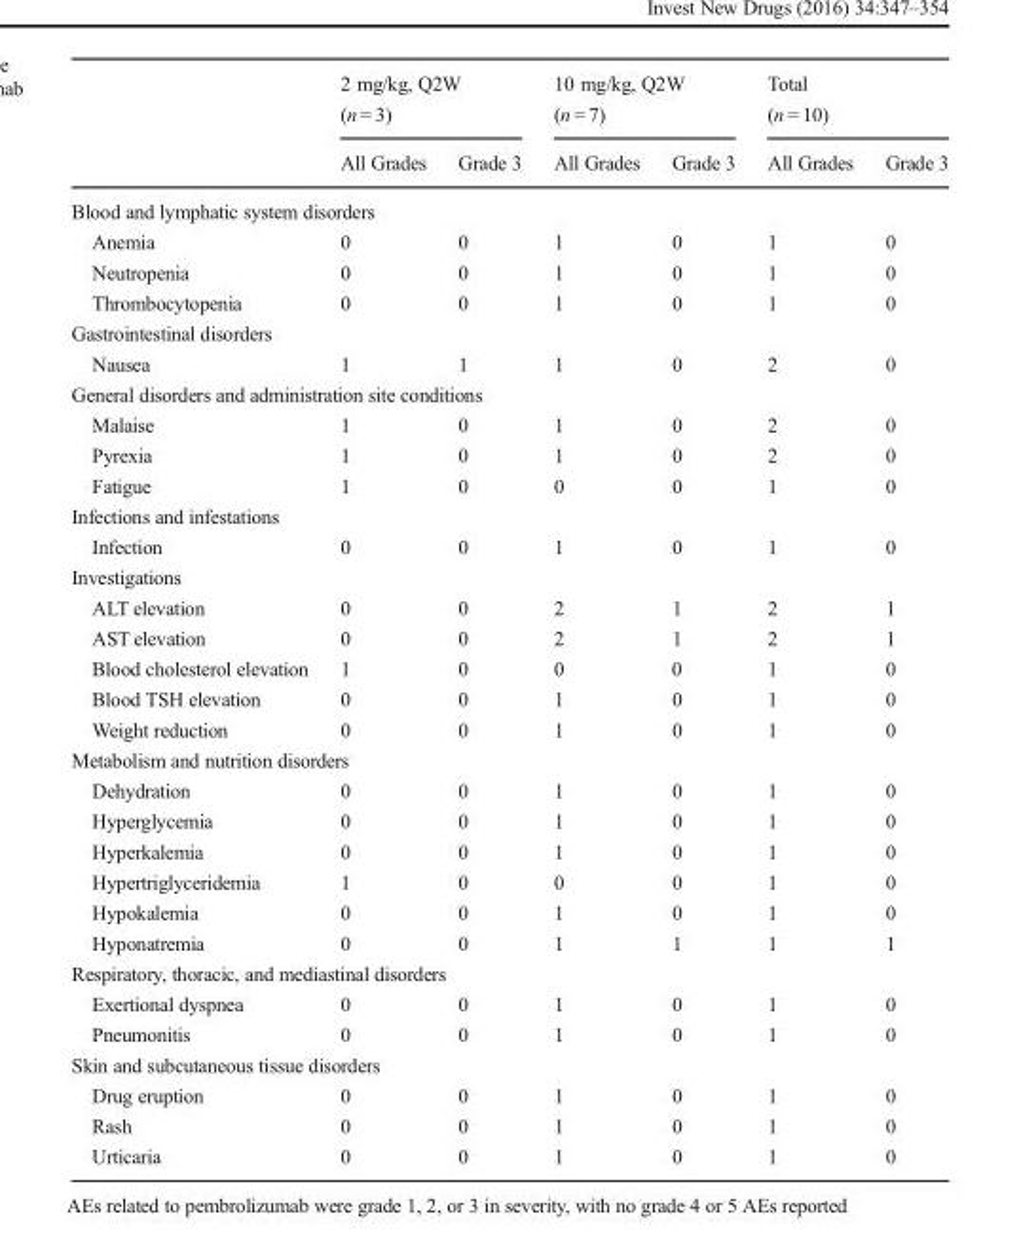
<table><thead><tr><td rowspan="2"></td><td colspan="2">2 mg/kg, Q2W (n = 3)</td><td colspan="2">10 mg/kg, Q2W (n = 7)</td><td colspan="2">Total (n = 10)</td></tr><tr><td>All Grades</td><td>Grade 3</td><td>All Grades</td><td>Grade 3</td><td>All Grades</td><td>Grade 3</td></tr></thead><tbody><tr><td colspan="7">Blood and lymphatic system disorders</td></tr><tr><td>Anemia</td><td>0</td><td>0</td><td>1</td><td>0</td><td>1</td><td>0</td></tr><tr><td>Neutropenia</td><td>0</td><td>0</td><td>1</td><td>0</td><td>1</td><td>0</td></tr><tr><td>Thrombocytopenia</td><td>0</td><td>0</td><td>1</td><td>0</td><td>1</td><td>0</td></tr><tr><td colspan="7">Gastrointestinal disorders</td></tr><tr><td>Nausea</td><td>1</td><td>1</td><td>1</td><td>0</td><td>2</td><td>0</td></tr><tr><td colspan="7">General disorders and administration site conditions</td></tr><tr><td>Malaise</td><td>1</td><td>0</td><td>1</td><td>0</td><td>2</td><td>0</td></tr><tr><td>Pyrexia</td><td>1</td><td>0</td><td>1</td><td>0</td><td>2</td><td>0</td></tr><tr><td>Fatigue</td><td>1</td><td>0</td><td>0</td><td>0</td><td>1</td><td>0</td></tr><tr><td colspan="7">Infections and infestations</td></tr><tr><td>Infection</td><td>0</td><td>0</td><td>1</td><td>0</td><td>1</td><td>0</td></tr><tr><td colspan="7">Investigations</td></tr><tr><td>ALT elevation</td><td>0</td><td>0</td><td>2</td><td>1</td><td>2</td><td>1</td></tr><tr><td>AST elevation</td><td>0</td><td>0</td><td>2</td><td>1</td><td>2</td><td>1</td></tr><tr><td>Blood cholesterol elevation</td><td>1</td><td>0</td><td>0</td><td>0</td><td>1</td><td>0</td></tr><tr><td>Blood TSH elevation</td><td>0</td><td>0</td><td>1</td><td>0</td><td>1</td><td>0</td></tr><tr><td>Weight reduction</td><td>0</td><td>0</td><td>1</td><td>0</td><td>1</td><td>0</td></tr><tr><td colspan="7">Metabolism and nutrition disorders</td></tr><tr><td>Dehydration</td><td>0</td><td>0</td><td>1</td><td>0</td><td>1</td><td>0</td></tr><tr><td>Hyperglycemia</td><td>0</td><td>0</td><td>1</td><td>0</td><td>1</td><td>0</td></tr><tr><td>Hyperkalemia</td><td>0</td><td>0</td><td>1</td><td>0</td><td>1</td><td>0</td></tr><tr><td>Hypertriglyceridemia</td><td>1</td><td>0</td><td>0</td><td>0</td><td>1</td><td>0</td></tr><tr><td>Hypokalemia</td><td>0</td><td>0</td><td>1</td><td>0</td><td>1</td><td>0</td></tr><tr><td>Hyponatremia</td><td>0</td><td>0</td><td>1</td><td>1</td><td>1</td><td>1</td></tr><tr><td colspan="7">Respiratory, thoracic, and mediastinal disorders</td></tr><tr><td>Exertional dyspnea</td><td>0</td><td>0</td><td>1</td><td>0</td><td>1</td><td>0</td></tr><tr><td>Pneumonitis</td><td>0</td><td>0</td><td>1</td><td>0</td><td>1</td><td>0</td></tr><tr><td colspan="7">Skin and subcutaneous tissue disorders</td></tr><tr><td>Drug eruption</td><td>0</td><td>0</td><td>1</td><td>0</td><td>1</td><td>0</td></tr><tr><td>Rash</td><td>0</td><td>0</td><td>1</td><td>0</td><td>1</td><td>0</td></tr><tr><td>Urticaria</td><td>0</td><td>0</td><td>1</td><td>0</td><td>1</td><td>0</td></tr></tbody></table>